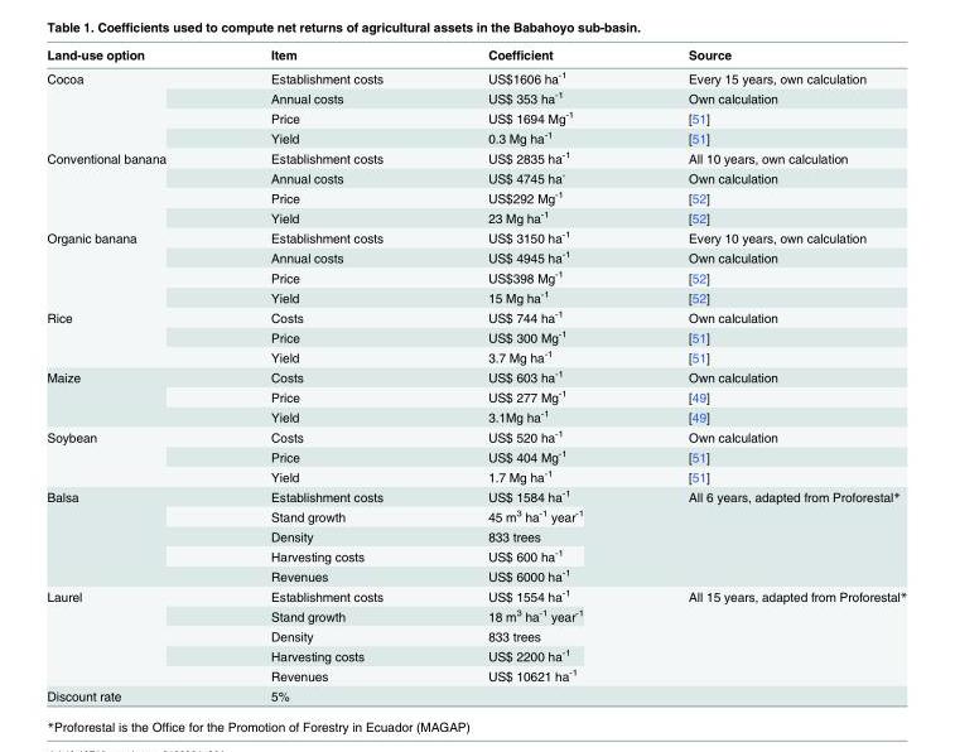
<table><thead><tr><td>Land-use option</td><td>Item</td><td>Coefficient</td><td>Source</td></tr></thead><tbody><tr><td rowspan="4">Cocoa</td><td>Establishment costs</td><td>US$1606 ha<sup>-1</sup></td><td>Every 15 years, own calculation</td></tr><tr><td>Annual costs</td><td>US$ 353 ha<sup>-1</sup></td><td>Own calculation</td></tr><tr><td>Price</td><td>US$ 1694 Mg<sup>-1</sup></td><td>[51]</td></tr><tr><td>Yield</td><td>0.3 Mg ha<sup>-1</sup></td><td>[51]</td></tr><tr><td rowspan="4">Conventional banana</td><td>Establishment costs</td><td>US$ 2835 ha<sup>-1</sup></td><td>All 10 years, own calculation</td></tr><tr><td>Annual costs</td><td>US$ 4745 ha<sup>-</sup></td><td>Own calculation</td></tr><tr><td>Price</td><td>US$292 Mg<sup>-1</sup></td><td>[52]</td></tr><tr><td>Yield</td><td>23 Mg ha<sup>-1</sup></td><td>[52]</td></tr><tr><td rowspan="4">Organic banana</td><td>Establishment costs</td><td>US$ 3150 ha<sup>-1</sup></td><td>Every 10 years, own calculation</td></tr><tr><td>Annual costs</td><td>US$ 4945 ha<sup>-1</sup></td><td>Own calculation</td></tr><tr><td>Price</td><td>US$398 Mg<sup>-1</sup></td><td>[52]</td></tr><tr><td>Yield</td><td>15 Mg ha<sup>-1</sup></td><td>[52]</td></tr><tr><td rowspan="3">Rice</td><td>Costs</td><td>US$ 744 ha<sup>-1</sup></td><td>Own calculation</td></tr><tr><td>Price</td><td>US$ 300 Mg<sup>-1</sup></td><td>[51]</td></tr><tr><td>Yield</td><td>3.7 Mg ha<sup>-1</sup></td><td>[51]</td></tr><tr><td rowspan="3">Maize</td><td>Costs</td><td>US$ 603 ha<sup>-1</sup></td><td>Own calculation</td></tr><tr><td>Price</td><td>US$ 277 Mg<sup>-1</sup></td><td>[49]</td></tr><tr><td>Yield</td><td>3.1Mg ha<sup>-1</sup></td><td>[49]</td></tr><tr><td rowspan="3">Soybean</td><td>Costs</td><td>US$ 520 ha<sup>-1</sup></td><td>Own calculation</td></tr><tr><td>Price</td><td>US$ 404 Mg<sup>-1</sup></td><td>[51]</td></tr><tr><td>Yield</td><td>1.7 Mg ha<sup>-1</sup></td><td>[51]</td></tr><tr><td rowspan="5">Balsa</td><td>Establishment costs</td><td>US$ 1584 ha<sup>-1</sup></td><td rowspan="5">All 6 years, adapted from Proforestal*</td></tr><tr><td>Stand growth</td><td>45 m<sup>3</sup> ha<sup>-1</sup> year<sup>-1</sup></td></tr><tr><td>Density</td><td>833 trees</td></tr><tr><td>Harvesting costs</td><td>US$ 600 ha<sup>-1</sup></td></tr><tr><td>Revenues</td><td>US$ 6000 ha<sup>-1</sup></td></tr><tr><td rowspan="5">Laurel</td><td>Establishment costs</td><td>US$ 1554 ha<sup>-1</sup></td><td rowspan="5">All 15 years, adapted from Proforestal*</td></tr><tr><td>Stand growth</td><td>18 m<sup>3</sup> ha<sup>-1</sup> year<sup>-1</sup></td></tr><tr><td>Density</td><td>833 trees</td></tr><tr><td>Harvesting costs</td><td>US$ 2200 ha<sup>-1</sup></td></tr><tr><td>Revenues</td><td>US$ 10621 ha<sup>-1</sup></td></tr><tr><td>Discount rate</td><td>5%</td><td></td><td></td></tr></tbody></table>